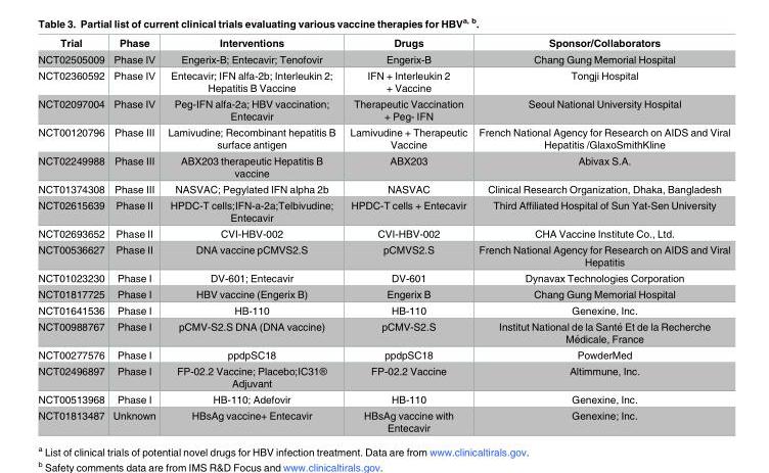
<table><thead><tr><td>Trial</td><td>Phase</td><td>Interventions</td><td>Drugs</td><td>Sponsor/Collaborators</td></tr></thead><tbody><tr><td>NCT02505009</td><td>Phase Ⅳ</td><td>Engerix-B; Entecavir; Tenofovir</td><td>Engerix-B</td><td>Chang Gung Memorial Hospital</td></tr><tr><td>NCT02360592</td><td>Phase Ⅳ</td><td>Entecavir; IFN alfa-2b; Interleukin 2; Hepatitis B Vaccine</td><td>IFN + Interleukin 2 + Vaccine</td><td>Tongji Hospital</td></tr><tr><td>NCT02097004</td><td>Phase Ⅳ</td><td>Peg-IFN alfa-2a; HBV vaccination; Entecavir</td><td>Therapeutic Vaccination + Peg- IFN</td><td>Seoul National University Hospital</td></tr><tr><td>NCT00120796</td><td>Phase Ⅲ</td><td>Lamivudine; Recombinant hepatitis B surface antigen</td><td>Lamivudine + Therapeutic Vaccine</td><td>French National Agency for Research on AIDS and Viral Hepatitis /GlaxoSmithKline</td></tr><tr><td>NCT02249988</td><td>Phase Ⅲ</td><td>ABX203 therapeutic Hepatitis B vaccine</td><td>ABX203</td><td>Abivax S.A.</td></tr><tr><td>NCT01374308</td><td>Phase Ⅲ</td><td>NASVAC; Pegylated IFN alpha 2b</td><td>NASVAC</td><td>Clinical Research Organization, Dhaka, Bangladesh</td></tr><tr><td>NCT02615639</td><td>Phase Ⅱ</td><td>HPDC-T cells;IFN-a-2a;Telbivudine; Entecavir</td><td>HPDC-T cells + Entecavir</td><td>Third Affiliated Hospital of Sun Yat-Sen University</td></tr><tr><td>NCT02693652</td><td>Phase Ⅱ</td><td>CVI-HBV-002</td><td>CVI-HBV-002</td><td>CHA Vaccine Institute Co., Ltd.</td></tr><tr><td>NCT00536627</td><td>Phase Ⅱ</td><td>DNA vaccine pCMVS2.S</td><td>pCMVS2.S</td><td>French National Agency for Research on AIDS and Viral Hepatitis</td></tr><tr><td>NCT01023230</td><td>Phase Ⅰ</td><td>DV-601; Entecavir</td><td>DV-601</td><td>Dynavax Technologies Corporation</td></tr><tr><td>NCT01817725</td><td>Phase Ⅰ</td><td>HBV vaccine (Engerix B)</td><td>Engerix B</td><td>Chang Gung Memorial Hospital</td></tr><tr><td>NCT01641536</td><td>Phase Ⅰ</td><td>HB-110</td><td>HB-110</td><td>Genexine, Inc.</td></tr><tr><td>NCT00988767</td><td>Phase Ⅰ</td><td>pCMV-S2.S DNA (DNA vaccine)</td><td>pCMV-S2.S</td><td>Institut National de la Sante´ Et de la Recherche Me´dicale, France</td></tr><tr><td>NCT00277576</td><td>Phase Ⅰ</td><td>ppdpSC18</td><td>ppdpSC18</td><td>PowderMed</td></tr><tr><td>NCT02496897</td><td>Phase Ⅰ</td><td>FP-02.2 Vaccine; Placebo;IC31® Adjuvant</td><td>FP-02.2 Vaccine</td><td>Altimmune, Inc.</td></tr><tr><td>NCT00513968</td><td>Phase Ⅰ</td><td>HB-110; Adefovir</td><td>HB-110</td><td>Genexine, Inc.</td></tr><tr><td>NCT01813487</td><td>Unknown</td><td>HBsAg vaccine+ Entecavir</td><td>HBsAg vaccine with Entecavir</td><td>Genexine; Inc.</td></tr></tbody></table>